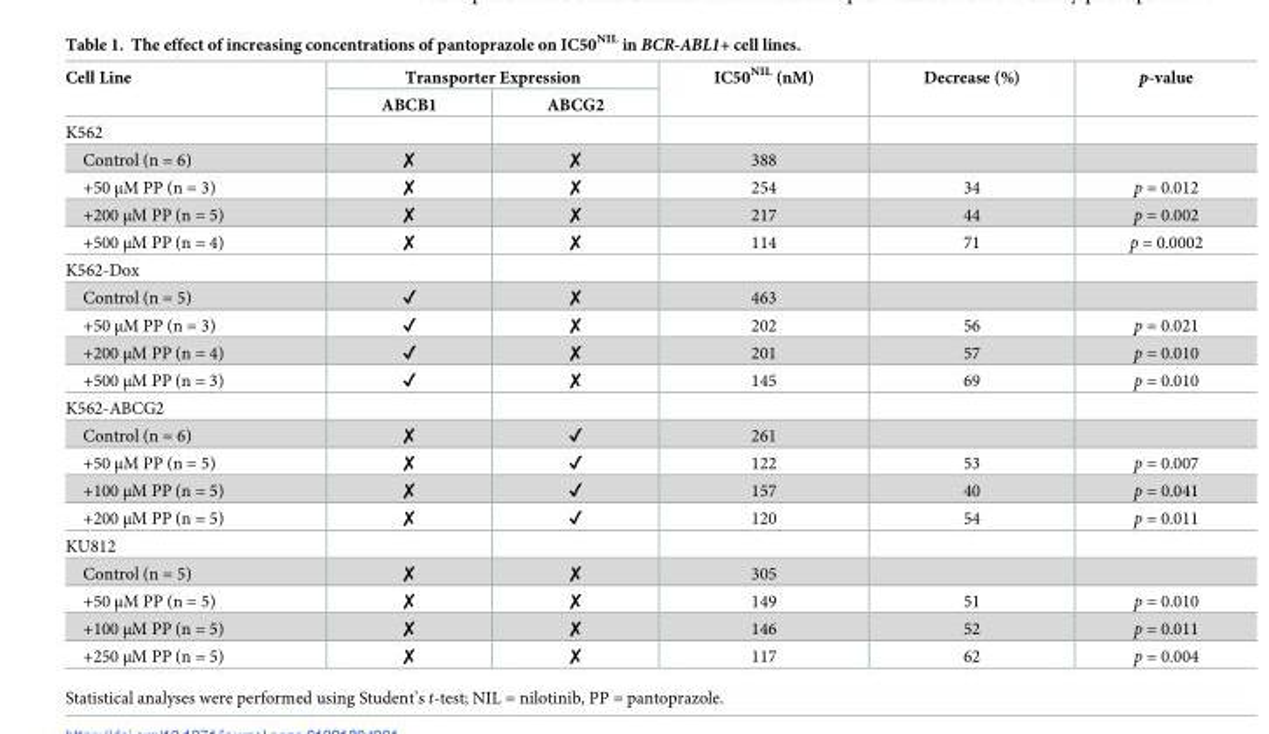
<table><thead><tr><td rowspan="2">Cell Line</td><td colspan="2">Transporter Expression</td><td rowspan="2">IC50<sup>NIL</sup> (nM)</td><td rowspan="2">Decrease (%)</td><td rowspan="2">p-value</td></tr><tr><td>ABCB1</td><td>ABCG2</td></tr></thead><tbody><tr><td colspan="6">K562</td></tr><tr><td>Control (n = 6)</td><td>✘</td><td>✘</td><td>388</td><td></td><td></td></tr><tr><td>+50 μM PP (n = 3)</td><td>✘</td><td>✘</td><td>254</td><td>34</td><td>p = 0.012</td></tr><tr><td>+200 μM PP (n = 5)</td><td>✘</td><td>✘</td><td>217</td><td>44</td><td>p = 0.002</td></tr><tr><td>+500 μM PP (n = 4)</td><td>✘</td><td>✘</td><td>114</td><td>71</td><td>p = 0.0002</td></tr><tr><td colspan="6">K562-Dox</td></tr><tr><td>Control (n = 5)</td><td>✔</td><td>✘</td><td>463</td><td></td><td></td></tr><tr><td>+50 μM PP (n = 3)</td><td>✔</td><td>✘</td><td>202</td><td>56</td><td>p = 0.021</td></tr><tr><td>+200 μM PP (n = 4)</td><td>✔</td><td>✘</td><td>201</td><td>57</td><td>p = 0.010</td></tr><tr><td>+500 μM PP (n = 3)</td><td>✔</td><td>✘</td><td>145</td><td>69</td><td>p = 0.010</td></tr><tr><td colspan="6">K562-ABCG2</td></tr><tr><td>Control (n = 6)</td><td>✘</td><td>✔</td><td>261</td><td></td><td></td></tr><tr><td>+50 μM PP (n = 5)</td><td>✘</td><td>✔</td><td>122</td><td>53</td><td>p = 0.007</td></tr><tr><td>+100 μM PP (n = 5)</td><td>✘</td><td>✔</td><td>157</td><td>40</td><td>p = 0.041</td></tr><tr><td>+200 μM PP (n = 5)</td><td>✘</td><td>✔</td><td>120</td><td>54</td><td>p = 0.011</td></tr><tr><td colspan="6">KU812</td></tr><tr><td>Control (n = 5)</td><td>✘</td><td>✘</td><td>305</td><td></td><td></td></tr><tr><td>+50 μM PP (n = 5)</td><td>✘</td><td>✘</td><td>149</td><td>51</td><td>p = 0.010</td></tr><tr><td>+100 μM PP (n = 5)</td><td>✘</td><td>✘</td><td>146</td><td>52</td><td>p = 0.011</td></tr><tr><td>+250 μM PP (n = 5)</td><td>✘</td><td>✘</td><td>117</td><td>62</td><td>p = 0.004</td></tr></tbody></table>